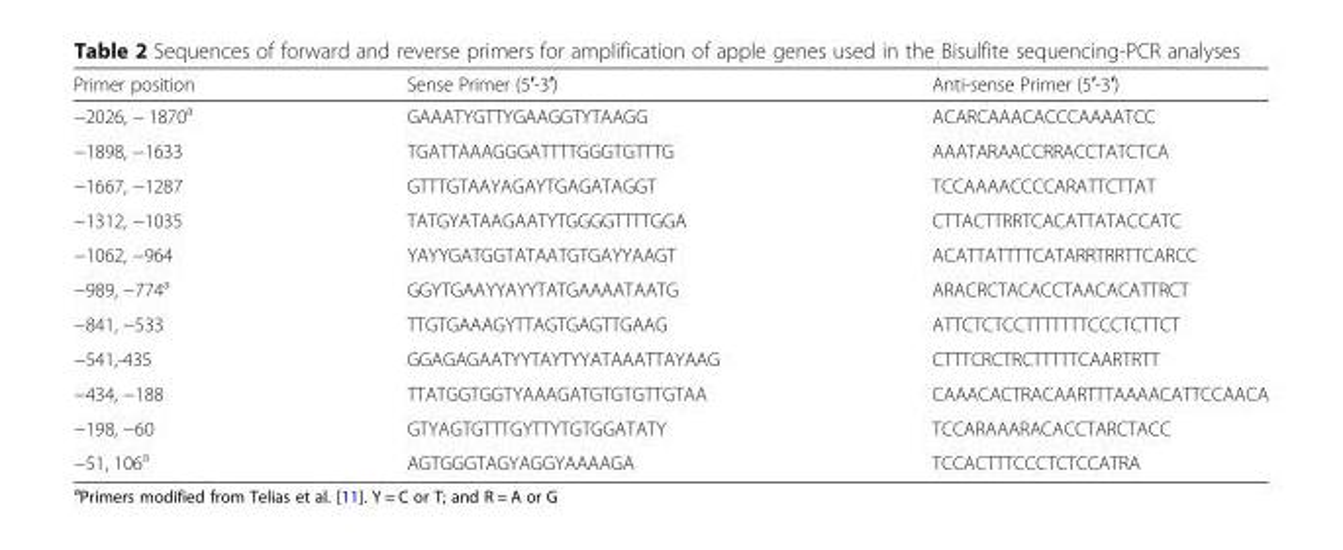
<table><thead><tr><td>Primer position</td><td>Sense Primer (5′-3′)</td><td>Anti-sense Primer (5′-3′)</td></tr></thead><tbody><tr><td>−2026, − 1870<sup>a</sup></td><td>GAAATYGTTYGAAGGTYTAAGG</td><td>ACARCAAACACCCAAAATCC</td></tr><tr><td>−1898, −1633</td><td>TGATTAAAGGGATTTTGGGTGTTTG</td><td>AAATARAACCRRACCTATCTCA</td></tr><tr><td>−1667, −1287</td><td>GTTTGTAAYAGAYTGAGATAGGT</td><td>TCCAAAACCCCARATTCTTAT</td></tr><tr><td>−1312, −1035</td><td>TATGYATAAGAATYTGGGGTTTTGGA</td><td>CTTACTTRRTCACATTATACCATC</td></tr><tr><td>−1062, −964</td><td>YAYYGATGGTATAATGTGAYYAAGT</td><td>ACATTATTTTCATARRTRRTTCARCC</td></tr><tr><td>−989, −774<sup>a</sup></td><td>GGYTGAAYYAYYTATGAAAATAATG</td><td>ARACRCTACACCTAACACATTRCT</td></tr><tr><td>−841, −533</td><td>TTGTGAAAGYTTAGTGAGTTGAAG</td><td>ATTCTCTCCTTTTTTTCCCTCTTCT</td></tr><tr><td>−541,-435</td><td>GGAGAGAATYYTAYTYYATAAATTAYAAG</td><td>CTTTCRCTRCTTTTTCAARTRTT</td></tr><tr><td>−434, −188</td><td>TTATGGTGGTYAAAGATGTGTGTTGTAA</td><td>CAAACACTRACAARTTTAAAACATTCCAACA</td></tr><tr><td>−198, −60</td><td>GTYAGTGTTTGYTTYTGTGGATATY</td><td>TCCARAAARACACCTARCTACC</td></tr><tr><td>−51, 106<sup>a</sup></td><td>AGTGGGTAGYAGGYAAAAGA</td><td>TCCACTTTCCCTCTCCATRA</td></tr></tbody></table>